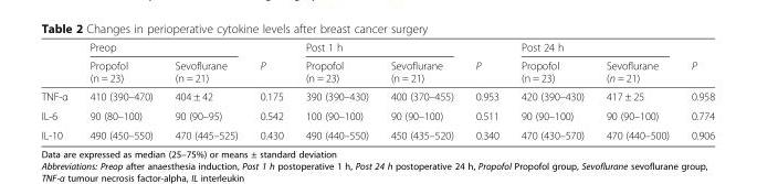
<table><thead><tr><td rowspan="2"></td><td colspan="2">Preop</td><td rowspan="2">P</td><td colspan="2">Post 1 h</td><td rowspan="2">P</td><td colspan="2">Post 24 h</td><td rowspan="2">P</td></tr><tr><td>Propofol (n = 23)</td><td>Sevoflurane (n = 21)</td><td>Propofol (n = 23)</td><td>Sevoflurane (n = 21)</td><td>Propofol (n = 23)</td><td>Sevoflurane (n = 21)</td></tr></thead><tbody><tr><td>TNF-α</td><td>410 (390–470)</td><td>404 ± 42</td><td>0.175</td><td>390 (390–430)</td><td>400 (370–455)</td><td>0.953</td><td>420 (390–430)</td><td>417 ± 25</td><td>0.958</td></tr><tr><td>IL-6</td><td>90 (80–100)</td><td>90 (90–95)</td><td>0.542</td><td>100 (90–100)</td><td>90 (90–100)</td><td>0.511</td><td>90 (90–100)</td><td>90 (90–100)</td><td>0.774</td></tr><tr><td>IL-10</td><td>490 (450–550)</td><td>470 (445–525)</td><td>0.430</td><td>490 (440–550)</td><td>450 (435–520)</td><td>0.340</td><td>470 (430–570)</td><td>470 (440–500)</td><td>0.906</td></tr></tbody></table>